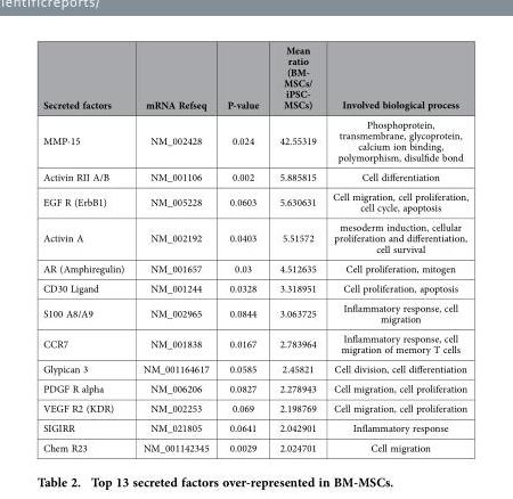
<table><thead><tr><td>Secreted factors</td><td>mRNA Refseq</td><td>P-value</td><td>Mean ratio (BM- MSCs/ iPSC- MSCs)</td><td>Involved biological process</td></tr></thead><tbody><tr><td>MMP-15</td><td>NM_002428</td><td>0.024</td><td>42.55319</td><td>Phosphoprotein, transmembrane, glycoprotein, calcium ion binding, polymorphism, disulfide bond</td></tr><tr><td>Activin RII A/B</td><td>NM_001106</td><td>0.002</td><td>5.885815</td><td>Cell differentiation</td></tr><tr><td>EGF R (ErbB1)</td><td>NM_005228</td><td>0.0603</td><td>5.630631</td><td>Cell migration, cell proliferation, cell cycle, apoptosis</td></tr><tr><td>Activin A</td><td>NM_002192</td><td>0.0403</td><td>5.51572</td><td>mesoderm induction, cellular proliferation and differentiation, cell survival</td></tr><tr><td>AR (Amphiregulin)</td><td>NM_001657</td><td>0.03</td><td>4.512635</td><td>Cell proliferation, mitogen</td></tr><tr><td>CD30 Ligand</td><td>NM_001244</td><td>0.0328</td><td>3.318951</td><td>Cell proliferation, apoptosis</td></tr><tr><td>S100 A8/A9</td><td>NM_002965</td><td>0.0844</td><td>3.063725</td><td>Inflammatory response, cell migration</td></tr><tr><td>CCR7</td><td>NM_001838</td><td>0.0167</td><td>2.783964</td><td>Inflammatory response, cell migration of memory T cells</td></tr><tr><td>Glypican 3</td><td>NM_001164617</td><td>0.0585</td><td>2.45821</td><td>Cell division, cell differentiation</td></tr><tr><td>PDGF R alpha</td><td>NM_006206</td><td>0.0827</td><td>2.278943</td><td>Cell migration, cell proliferation</td></tr><tr><td>VEGF R2 (KDR)</td><td>NM_002253</td><td>0.069</td><td>2.198769</td><td>Cell migration, cell proliferation</td></tr><tr><td>SIGIRR</td><td>NM_021805</td><td>0.0641</td><td>2.042901</td><td>Inflammatory response</td></tr><tr><td>Chem R23</td><td>NM_001142345</td><td>0.0029</td><td>2.024701</td><td>Cell migration</td></tr></tbody></table>